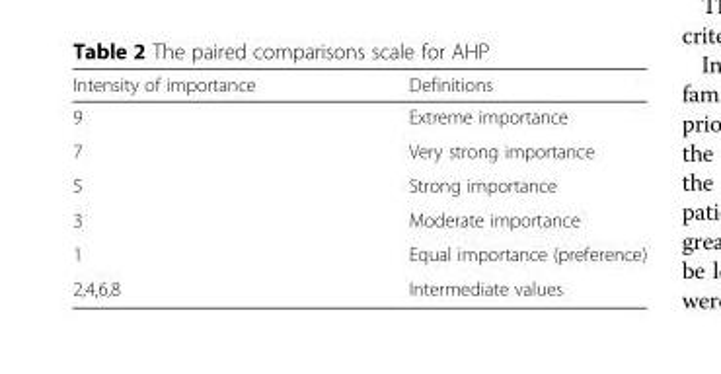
<table><thead><tr><td>Intensity of importance</td><td>Definitions</td></tr></thead><tbody><tr><td>9</td><td>Extreme importance</td></tr><tr><td>7</td><td>Very strong importance</td></tr><tr><td>5</td><td>Strong importance</td></tr><tr><td>3</td><td>Moderate importance</td></tr><tr><td>1</td><td>Equal importance (preference)</td></tr><tr><td>2,4,6,8</td><td>Intermediate values</td></tr></tbody></table>